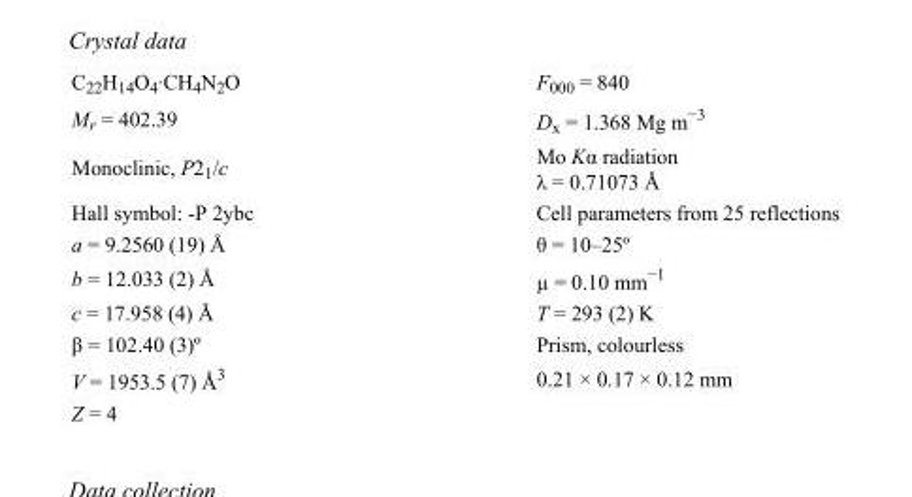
<table><tbody><tr><td>C<sub>22</sub>H<sub>14</sub>O<sub>4</sub>·CH<sub>4</sub>N<sub>2</sub>O</td><td>F000 = 840</td></tr><tr><td>M<sub>r</sub> = 402.39</td><td>D<sub>x</sub> = 1.368 Mg m<sup>−3</sup></td></tr><tr><td>Monoclinic, P2<sub>1</sub>/c</td><td>Mo Kα radiation λ = 0.71073 Å</td></tr><tr><td>Hall symbol: -P 2ybc</td><td>Cell parameters from 25 reflections</td></tr><tr><td>a = 9.2560 (19) Å</td><td>θ = 10–25º</td></tr><tr><td>b = 12.033 (2) Å</td><td>µ = 0.10 mm<sup>−1</sup></td></tr><tr><td>c = 17.958 (4) Å</td><td>T = 293 (2) K</td></tr><tr><td>β = 102.40 (3)º</td><td>Prism, colourless</td></tr><tr><td>V = 1953.5 (7) Å<sup>3</sup></td><td>0.21 × 0.17 × 0.12 mm</td></tr><tr><td>Z = 4</td><td></td></tr></tbody></table>